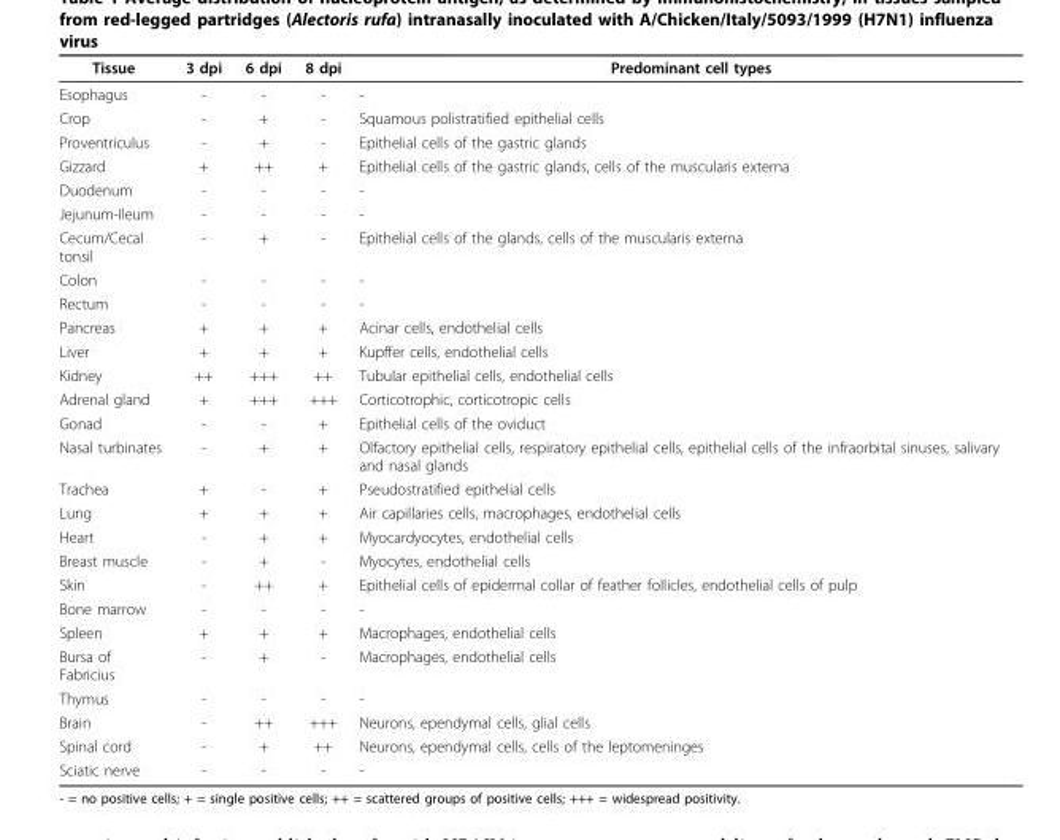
<table><thead><tr><td>Tissue</td><td>3 dpi</td><td>6 dpi</td><td>8 dpi</td><td>Predominant cell types</td></tr></thead><tbody><tr><td>Esophagus</td><td>-</td><td>-</td><td>-</td><td>-</td></tr><tr><td>Crop</td><td>-</td><td>+</td><td>-</td><td>Squamous polistratified epithelial cells</td></tr><tr><td>Proventriculus</td><td>-</td><td>+</td><td>-</td><td>Epithelial cells of the gastric glands</td></tr><tr><td>Gizzard</td><td>+</td><td>++</td><td>+</td><td>Epithelial cells of the gastric glands, cells of the muscularis externa</td></tr><tr><td>Duodenum</td><td>-</td><td>-</td><td>-</td><td>-</td></tr><tr><td>Jejunum-Ileum</td><td>-</td><td>-</td><td>-</td><td>-</td></tr><tr><td>Cecum/Cecal tonsil</td><td>-</td><td>+</td><td>-</td><td>Epithelial cells of the glands, cells of the muscularis externa</td></tr><tr><td>Colon</td><td>-</td><td>-</td><td>-</td><td>-</td></tr><tr><td>Rectum</td><td>-</td><td>-</td><td>-</td><td>-</td></tr><tr><td>Pancreas</td><td>+</td><td>+</td><td>+</td><td>Acinar cells, endothelial cells</td></tr><tr><td>Liver</td><td>+</td><td>+</td><td>+</td><td>Kupffer cells, endothelial cells</td></tr><tr><td>Kidney</td><td>++</td><td>+++</td><td>++</td><td>Tubular epithelial cells, endothelial cells</td></tr><tr><td>Adrenal gland</td><td>+</td><td>+++</td><td>+++</td><td>Corticotrophic, corticotropic cells</td></tr><tr><td>Gonad</td><td>-</td><td>-</td><td>+</td><td>Epithelial cells of the oviduct</td></tr><tr><td>Nasal turbinates</td><td>-</td><td>+</td><td>+</td><td>Olfactory epithelial cells, respiratory epithelial cells, epithelial cells of the infraorbital sinuses, salivary and nasal glands</td></tr><tr><td>Trachea</td><td>+</td><td>-</td><td>+</td><td>Pseudostratified epithelial cells</td></tr><tr><td>Lung</td><td>+</td><td>+</td><td>+</td><td>Air capillaries cells, macrophages, endothelial cells</td></tr><tr><td>Heart</td><td>-</td><td>+</td><td>+</td><td>Myocardyocytes, endothelial cells</td></tr><tr><td>Breast muscle</td><td>-</td><td>+</td><td>-</td><td>Myocytes, endothelial cells</td></tr><tr><td>Skin</td><td>-</td><td>++</td><td>+</td><td>Epithelial cells of epidermal collar of feather follicles, endothelial cells of pulp</td></tr><tr><td>Bone marrow</td><td>-</td><td>-</td><td>-</td><td>-</td></tr><tr><td>Spleen</td><td>+</td><td>+</td><td>+</td><td>Macrophages, endothelial cells</td></tr><tr><td>Bursa of Fabricius</td><td>-</td><td>+</td><td>-</td><td>Macrophages, endothelial cells</td></tr><tr><td>Thymus</td><td>-</td><td>-</td><td>-</td><td>-</td></tr><tr><td>Brain</td><td>-</td><td>++</td><td>+++</td><td>Neurons, ependymal cells, glial cells</td></tr><tr><td>Spinal cord</td><td>-</td><td>+</td><td>++</td><td>Neurons, ependymal cells, cells of the leptomeninges</td></tr><tr><td>Sciatic nerve</td><td>-</td><td>-</td><td>-</td><td>-</td></tr></tbody></table>